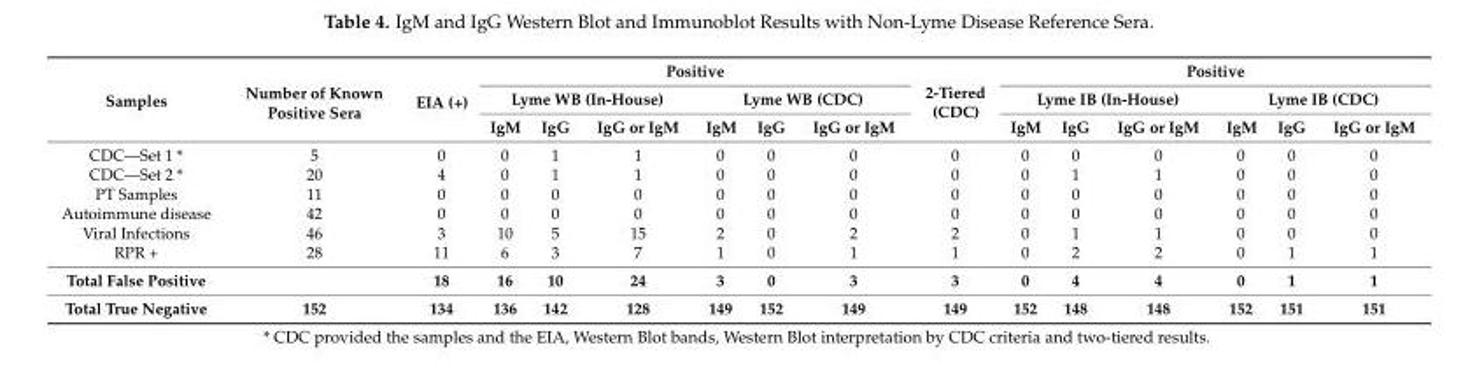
<table><thead><tr><td rowspan="3">Samples</td><td rowspan="3">Number of Known Positive Sera</td><td rowspan="3">EIA (+)</td><td colspan="6">Positive</td><td rowspan="3">2-Tiered (CDC)</td><td colspan="6">Positive</td></tr><tr><td colspan="3">Lyme WB (In-House)</td><td colspan="3">Lyme WB (CDC)</td><td colspan="3">Lyme IB (In-House)</td><td colspan="3">Lyme IB (CDC)</td></tr><tr><td>IgM</td><td>IgG</td><td>IgG or IgM</td><td>IgM</td><td>IgG</td><td>IgG or IgM</td><td>IgM</td><td>IgG</td><td>IgG or IgM</td><td>IgM</td><td>IgG</td><td>IgG or IgM</td></tr></thead><tbody><tr><td>CDC—Set 1 *</td><td>5</td><td>0</td><td>0</td><td>1</td><td>1</td><td>0</td><td>0</td><td>0</td><td>0</td><td>0</td><td>0</td><td>0</td><td>0</td><td>0</td><td>0</td></tr><tr><td>CDC—Set 2 *</td><td>20</td><td>4</td><td>0</td><td>1</td><td>1</td><td>0</td><td>0</td><td>0</td><td>0</td><td>0</td><td>1</td><td>1</td><td>0</td><td>0</td><td>0</td></tr><tr><td>PT Samples</td><td>11</td><td>0</td><td>0</td><td>0</td><td>0</td><td>0</td><td>0</td><td>0</td><td>0</td><td>0</td><td>0</td><td>0</td><td>0</td><td>0</td><td>0</td></tr><tr><td>Autoimmune disease</td><td>42</td><td>0</td><td>0</td><td>0</td><td>0</td><td>0</td><td>0</td><td>0</td><td>0</td><td>0</td><td>0</td><td>0</td><td>0</td><td>0</td><td>0</td></tr><tr><td>Viral Infections</td><td>46</td><td>3</td><td>10</td><td>5</td><td>15</td><td>2</td><td>0</td><td>2</td><td>2</td><td>0</td><td>1</td><td>1</td><td>0</td><td>0</td><td>0</td></tr><tr><td>RPR +</td><td>28</td><td>11</td><td>6</td><td>3</td><td>7</td><td>1</td><td>0</td><td>1</td><td>1</td><td>0</td><td>2</td><td>2</td><td>0</td><td>1</td><td>1</td></tr><tr><td>Total False Positive</td><td></td><td>18</td><td>16</td><td>10</td><td>24</td><td>3</td><td>0</td><td>3</td><td>3</td><td>0</td><td>4</td><td>4</td><td>0</td><td>1</td><td>1</td></tr><tr><td>Total True Negative</td><td>152</td><td>134</td><td>136</td><td>142</td><td>128</td><td>149</td><td>152</td><td>149</td><td>149</td><td>152</td><td>148</td><td>148</td><td>152</td><td>151</td><td>151</td></tr></tbody></table>